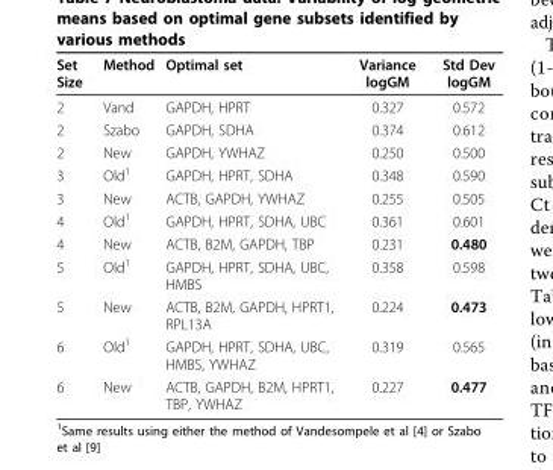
<table><thead><tr><td>Set Size</td><td>Method</td><td>Optimal set</td><td>Variance logGM</td><td>Std Dev logGM</td></tr></thead><tbody><tr><td>2</td><td>Vand</td><td>GAPDH, HPRT</td><td>0.327</td><td>0.572</td></tr><tr><td>2</td><td>Szabo</td><td>GAPDH, SDHA</td><td>0.374</td><td>0.612</td></tr><tr><td>2</td><td>New</td><td>GAPDH, YWHAZ</td><td>0.250</td><td>0.500</td></tr><tr><td>3</td><td>Old<sup>1</sup></td><td>GAPDH, HPRT, SDHA</td><td>0.348</td><td>0.590</td></tr><tr><td>3</td><td>New</td><td>ACTB, GAPDH, YWHAZ</td><td>0.255</td><td>0.505</td></tr><tr><td>4</td><td>Old<sup>1</sup></td><td>GAPDH, HPRT, SDHA, UBC</td><td>0.361</td><td>0.601</td></tr><tr><td>4</td><td>New</td><td>ACTB, B2M, GAPDH, TBP</td><td>0.231</td><td>0.480</td></tr><tr><td>5</td><td>Old<sup>1</sup></td><td>GAPDH, HPRT, SDHA, UBC, HMBS</td><td>0.358</td><td>0.598</td></tr><tr><td>5</td><td>New</td><td>ACTB, B2M, GAPDH, HPRT1, RPL13A</td><td>0.224</td><td>0.473</td></tr><tr><td>6</td><td>Old<sup>1</sup></td><td>GAPDH, HPRT, SDHA, UBC, HMBS, YWHAZ</td><td>0.319</td><td>0.565</td></tr><tr><td>6</td><td>New</td><td>ACTB, GAPDH, B2M, HPRT1, TBP, YWHAZ</td><td>0.227</td><td>0.477</td></tr></tbody></table>